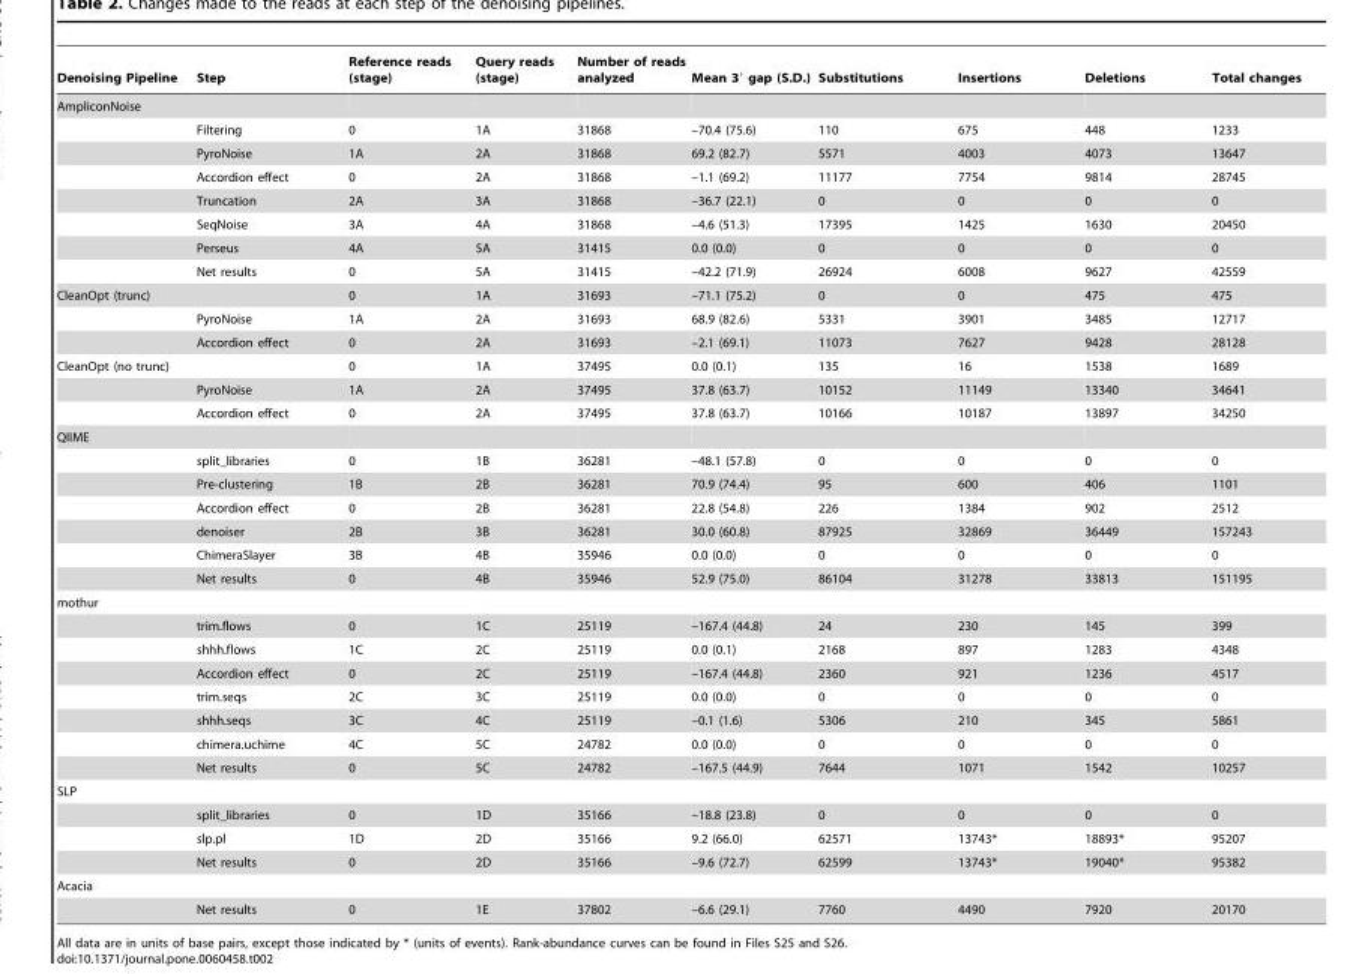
<table><thead><tr><td>Denoising Pipeline</td><td>Step</td><td>Reference reads (stage)</td><td>Query reads (stage)</td><td>Number of reads analyzed</td><td>Mean 3′ gap (S.D.)</td><td>Substitutions</td><td>Insertions</td><td>Deletions</td><td>Total changes</td></tr></thead><tbody><tr><td colspan="10">AmpliconNoise</td></tr><tr><td></td><td>Filtering</td><td>0</td><td>1A</td><td>31868</td><td>–70.4 (75.6)</td><td>110</td><td>675</td><td>448</td><td>1233</td></tr><tr><td></td><td>PyroNoise</td><td>1A</td><td>2A</td><td>31868</td><td>69.2 (82.7)</td><td>5571</td><td>4003</td><td>4073</td><td>13647</td></tr><tr><td></td><td>Accordion effect</td><td>0</td><td>2A</td><td>31868</td><td>–1.1 (69.2)</td><td>11177</td><td>7754</td><td>9814</td><td>28745</td></tr><tr><td></td><td>Truncation</td><td>2A</td><td>3A</td><td>31868</td><td>–36.7 (22.1)</td><td>0</td><td>0</td><td>0</td><td>0</td></tr><tr><td></td><td>SeqNoise</td><td>3A</td><td>4A</td><td>31868</td><td>–4.6 (51.3)</td><td>17395</td><td>1425</td><td>1630</td><td>20450</td></tr><tr><td></td><td>Perseus</td><td>4A</td><td>5A</td><td>31415</td><td>0.0 (0.0)</td><td>0</td><td>0</td><td>0</td><td>0</td></tr><tr><td></td><td>Net results</td><td>0</td><td>5A</td><td>31415</td><td>–42.2 (71.9)</td><td>26924</td><td>6008</td><td>9627</td><td>42559</td></tr><tr><td rowspan="3">CleanOpt (trunc)</td><td></td><td>0</td><td>1A</td><td>31693</td><td>–71.1 (75.2)</td><td>0</td><td>0</td><td>475</td><td>475</td></tr><tr><td>PyroNoise</td><td>1A</td><td>2A</td><td>31693</td><td>68.9 (82.6)</td><td>5331</td><td>3901</td><td>3485</td><td>12717</td></tr><tr><td>Accordion effect</td><td>0</td><td>2A</td><td>31693</td><td>–2.1 (69.1)</td><td>11073</td><td>7627</td><td>9428</td><td>28128</td></tr><tr><td rowspan="3">CleanOpt (no trunc)</td><td></td><td>0</td><td>1A</td><td>37495</td><td>0.0 (0.1)</td><td>135</td><td>16</td><td>1538</td><td>1689</td></tr><tr><td>PyroNoise</td><td>1A</td><td>2A</td><td>37495</td><td>37.8 (63.7)</td><td>10152</td><td>11149</td><td>13340</td><td>34641</td></tr><tr><td>Accordion effect</td><td>0</td><td>2A</td><td>37495</td><td>37.8 (63.7)</td><td>10166</td><td>10187</td><td>13897</td><td>34250</td></tr><tr><td colspan="10">QIIME</td></tr><tr><td></td><td>split_libraries</td><td>0</td><td>1B</td><td>36281</td><td>–48.1 (57.8)</td><td>0</td><td>0</td><td>0</td><td>0</td></tr><tr><td></td><td>Pre-clustering</td><td>1B</td><td>2B</td><td>36281</td><td>70.9 (74.4)</td><td>95</td><td>600</td><td>406</td><td>1101</td></tr><tr><td></td><td>Accordion effect</td><td>0</td><td>2B</td><td>36281</td><td>22.8 (54.8)</td><td>226</td><td>1384</td><td>902</td><td>2512</td></tr><tr><td></td><td>denoiser</td><td>2B</td><td>3B</td><td>36281</td><td>30.0 (60.8)</td><td>87925</td><td>32869</td><td>36449</td><td>157243</td></tr><tr><td></td><td>ChimeraSlayer</td><td>3B</td><td>4B</td><td>35946</td><td>0.0 (0.0)</td><td>0</td><td>0</td><td>0</td><td>0</td></tr><tr><td></td><td>Net results</td><td>0</td><td>4B</td><td>35946</td><td>52.9 (75.0)</td><td>86104</td><td>31278</td><td>33813</td><td>151195</td></tr><tr><td colspan="10">mothur</td></tr><tr><td></td><td>trim.flows</td><td>0</td><td>1C</td><td>25119</td><td>–167.4 (44.8)</td><td>24</td><td>230</td><td>145</td><td>399</td></tr><tr><td></td><td>shhh.flows</td><td>1C</td><td>2C</td><td>25119</td><td>0.0 (0.1)</td><td>2168</td><td>897</td><td>1283</td><td>4348</td></tr><tr><td></td><td>Accordion effect</td><td>0</td><td>2C</td><td>25119</td><td>–167.4 (44.8)</td><td>2360</td><td>921</td><td>1236</td><td>4517</td></tr><tr><td></td><td>trim.seqs</td><td>2C</td><td>3C</td><td>25119</td><td>0.0 (0.0)</td><td>0</td><td>0</td><td>0</td><td>0</td></tr><tr><td></td><td>shhh.seqs</td><td>3C</td><td>4C</td><td>25119</td><td>–0.1 (1.6)</td><td>5306</td><td>210</td><td>345</td><td>5861</td></tr><tr><td></td><td>chimera.uchime</td><td>4C</td><td>5C</td><td>24782</td><td>0.0 (0.0)</td><td>0</td><td>0</td><td>0</td><td>0</td></tr><tr><td></td><td>Net results</td><td>0</td><td>5C</td><td>24782</td><td>–167.5 (44.9)</td><td>7644</td><td>1071</td><td>1542</td><td>10257</td></tr><tr><td colspan="10">SLP</td></tr><tr><td></td><td>split_libraries</td><td>0</td><td>1D</td><td>35166</td><td>–18.8 (23.8)</td><td>0</td><td>0</td><td>0</td><td>0</td></tr><tr><td></td><td>slp.pl</td><td>1D</td><td>2D</td><td>35166</td><td>9.2 (66.0)</td><td>62571</td><td>13743*</td><td>18893*</td><td>95207</td></tr><tr><td></td><td>Net results</td><td>0</td><td>2D</td><td>35166</td><td>–9.6 (72.7)</td><td>62599</td><td>13743*</td><td>19040*</td><td>95382</td></tr><tr><td colspan="10">Acacia</td></tr><tr><td></td><td>Net results</td><td>0</td><td>1E</td><td>37802</td><td>–6.6 (29.1)</td><td>7760</td><td>4490</td><td>7920</td><td>20170</td></tr></tbody></table>